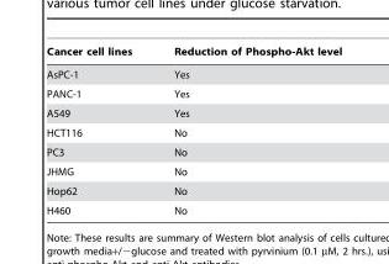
<table><thead><tr><td>Cancer cell lines</td><td>Reduction of Phospho-Akt level</td></tr></thead><tbody><tr><td>AsPC-1</td><td>Yes</td></tr><tr><td>PANC-1</td><td>Yes</td></tr><tr><td>A549</td><td>Yes</td></tr><tr><td>HCT116</td><td>No</td></tr><tr><td>PC3</td><td>No</td></tr><tr><td>JHMG</td><td>No</td></tr><tr><td>Hop62</td><td>No</td></tr><tr><td>H460</td><td>No</td></tr></tbody></table>